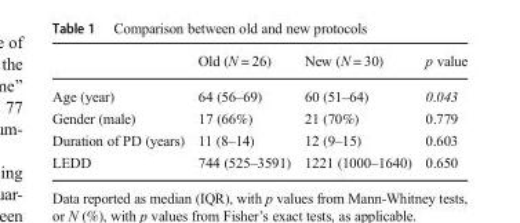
<table><thead><tr><td></td><td>Old (N = 26)</td><td>New (N = 30)</td><td>p value</td></tr></thead><tbody><tr><td>Age (year)</td><td>64 (56–69)</td><td>60 (51–64)</td><td>0.043</td></tr><tr><td>Gender (male)</td><td>17 (66%)</td><td>21 (70%)</td><td>0.779</td></tr><tr><td>Duration of PD (years)</td><td>11 (8–14)</td><td>12 (9–15)</td><td>0.603</td></tr><tr><td>LEDD</td><td>744 (525–3591)</td><td>1221 (1000–1640)</td><td>0.650</td></tr></tbody></table>